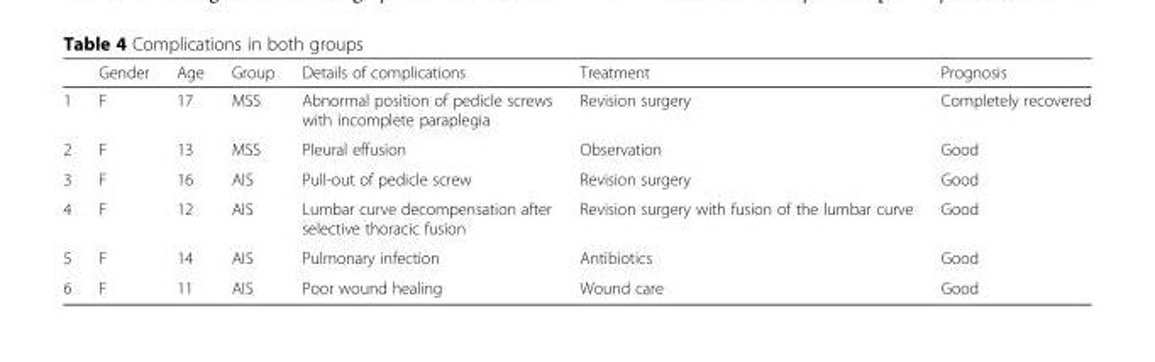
<table><thead><tr><td></td><td>Gender</td><td>Age</td><td>Group</td><td>Details of complications</td><td>Treatment</td><td>Prognosis</td></tr></thead><tbody><tr><td>1</td><td>F</td><td>17</td><td>MSS</td><td>Abnormal position of pedicle screws with incomplete paraplegia</td><td>Revision surgery</td><td>Completely recovered</td></tr><tr><td>2</td><td>F</td><td>13</td><td>MSS</td><td>Pleural effusion</td><td>Observation</td><td>Good</td></tr><tr><td>3</td><td>F</td><td>16</td><td>AIS</td><td>Pull-out of pedicle screw</td><td>Revision surgery</td><td>Good</td></tr><tr><td>4</td><td>F</td><td>12</td><td>AIS</td><td>Lumbar curve decompensation after selective thoracic fusion</td><td>Revision surgery with fusion of the lumbar curve</td><td>Good</td></tr><tr><td>5</td><td>F</td><td>14</td><td>AIS</td><td>Pulmonary infection</td><td>Antibiotics</td><td>Good</td></tr><tr><td>6</td><td>F</td><td>11</td><td>AIS</td><td>Poor wound healing</td><td>Wound care</td><td>Good</td></tr></tbody></table>